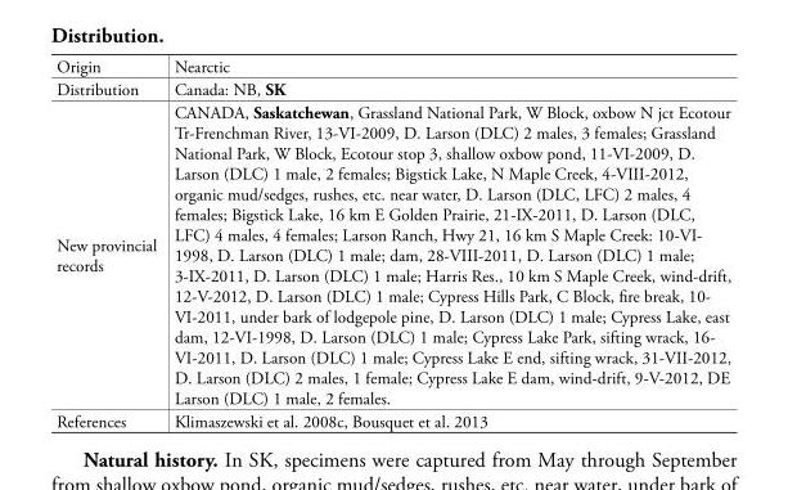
<table><tbody><tr><td>Origin</td><td>Nearctic</td></tr><tr><td>Distribution</td><td>Canada: NB, SK</td></tr><tr><td>New provincial records</td><td>CANADA, Saskatchewan, Grassland National Park, W Block, oxbow N jct Ecotour Tr-Frenchman River, 13-VI-2009, D. Larson (DLC) 2 males, 3 females; Grassland National Park, W Block, Ecotour stop 3, shallow oxbow pond, 11-VI-2009, D. Larson (DLC) 1 male, 2 females; Bigstick Lake, N Maple Creek, 4-VIII-2012, organic mud/sedges, rushes, etc. near water, D. Larson (DLC, LFC) 2 males, 4 females; Bigstick Lake, 16 km E Golden Prairie, 21-IX-2011, D. Larson (DLC, LFC) 4 males, 4 females; Larson Ranch, Hwy 21, 16 km S Maple Creek: 10-VI- 1998, D. Larson (DLC) 1 male; dam, 28-VIII-2011, D. Larson (DLC) 1 male; 3-IX-2011, D. Larson (DLC) 1 male; Harris Res., 10 km S Maple Creek, wind-drift, 12-V-2012, D. Larson (DLC) 1 male; Cypress Hills Park, C Block, fire break, 10- VI-2011, under bark of lodgepole pine, D. Larson (DLC) 1 male; Cypress Lake, east dam, 12-VI-1998, D. Larson (DLC) 1 male; Cypress Lake Park, sifting wrack, 16- VI-2011, D. Larson (DLC) 1 male; Cypress Lake E end, sifting wrack, 31-VII-2012, D. Larson (DLC) 2 males, 1 female; Cypress Lake E dam, wind-drift, 9-V-2012, DE Larson (DLC) 1 male, 2 females.</td></tr><tr><td>References</td><td>Klimaszewski et al. 2008c, Bousquet et al. 2013</td></tr></tbody></table>